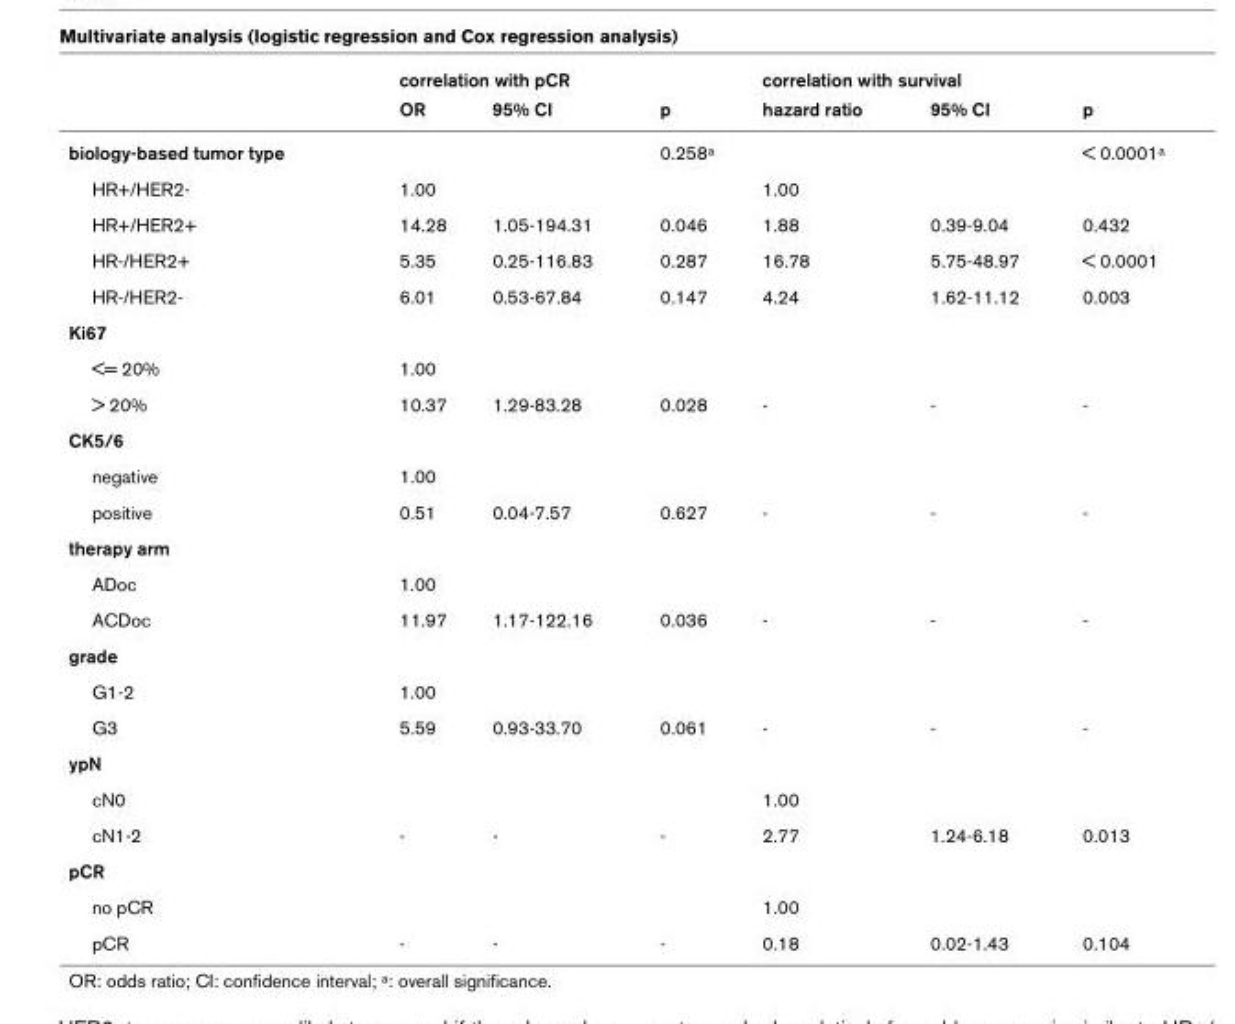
<table><thead><tr><td rowspan="2"></td><td colspan="3">correlation with pCR</td><td colspan="3">correlation with survival</td></tr><tr><td>OR</td><td>95% CI</td><td>p</td><td>hazard ratio</td><td>95% CI</td><td>p</td></tr></thead><tbody><tr><td>biology-based tumor type</td><td></td><td></td><td>0.258<sup>a</sup></td><td></td><td></td><td>&lt; 0.0001<sup>a</sup></td></tr><tr><td>HR+/HER2-</td><td>1.00</td><td></td><td></td><td>1.00</td><td></td><td></td></tr><tr><td>HR+/HER2+</td><td>14.28</td><td>1.05-194.31</td><td>0.046</td><td>1.88</td><td>0.39-9.04</td><td>0.432</td></tr><tr><td>HR-/HER2+</td><td>5.35</td><td>0.25-116.83</td><td>0.287</td><td>16.78</td><td>5.75-48.97</td><td>&lt; 0.0001</td></tr><tr><td>HR-/HER2-</td><td>6.01</td><td>0.53-67.84</td><td>0.147</td><td>4.24</td><td>1.62-11.12</td><td>0.003</td></tr><tr><td colspan="7">Ki67</td></tr><tr><td>&lt;= 20%</td><td>1.00</td><td></td><td></td><td></td><td></td><td></td></tr><tr><td>&gt; 20%</td><td>10.37</td><td>1.29-83.28</td><td>0.028</td><td>-</td><td>-</td><td>-</td></tr><tr><td colspan="7">CK5/6</td></tr><tr><td>negative</td><td>1.00</td><td></td><td></td><td></td><td></td><td></td></tr><tr><td>positive</td><td>0.51</td><td>0.04-7.57</td><td>0.627</td><td>-</td><td>-</td><td>-</td></tr><tr><td colspan="7">therapy arm</td></tr><tr><td>ADoc</td><td>1.00</td><td></td><td></td><td></td><td></td><td></td></tr><tr><td>ACDoc</td><td>11.97</td><td>1.17-122.16</td><td>0.036</td><td>-</td><td>-</td><td>-</td></tr><tr><td colspan="7">grade</td></tr><tr><td>G1-2</td><td>1.00</td><td></td><td></td><td></td><td></td><td></td></tr><tr><td>G3</td><td>5.59</td><td>0.93-33.70</td><td>0.061</td><td>-</td><td>-</td><td>-</td></tr><tr><td colspan="7">ypN</td></tr><tr><td>cN0</td><td></td><td></td><td></td><td>1.00</td><td></td><td></td></tr><tr><td>cN1-2</td><td>-</td><td>-</td><td>-</td><td>2.77</td><td>1.24-6.18</td><td>0.013</td></tr><tr><td colspan="7">pCR</td></tr><tr><td>no pCR</td><td></td><td></td><td></td><td>1.00</td><td></td><td></td></tr><tr><td>pCR</td><td>-</td><td>-</td><td>-</td><td>0.18</td><td>0.02-1.43</td><td>0.104</td></tr></tbody></table>